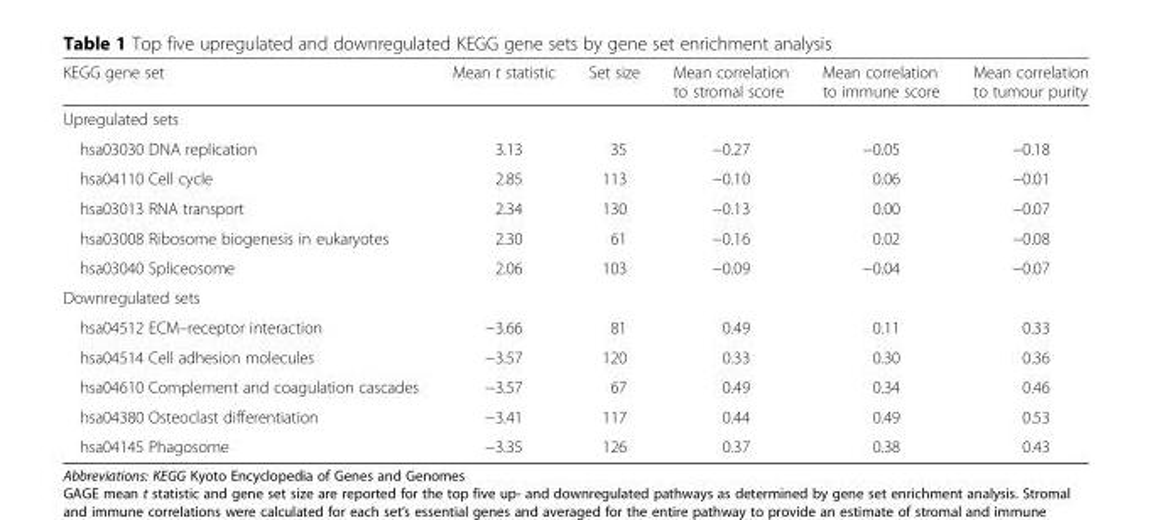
<table><thead><tr><td>KEGG gene set</td><td>Mean t statistic</td><td>Set size</td><td>Mean correlation to stromal score</td><td>Mean correlation to immune score</td><td>Mean correlation to tumour purity</td></tr></thead><tbody><tr><td colspan="6">Upregulated sets</td></tr><tr><td>hsa03030 DNA replication</td><td>3.13</td><td>35</td><td>−0.27</td><td>−0.05</td><td>−0.18</td></tr><tr><td>hsa04110 Cell cycle</td><td>2.85</td><td>113</td><td>−0.10</td><td>0.06</td><td>−0.01</td></tr><tr><td>hsa03013 RNA transport</td><td>2.34</td><td>130</td><td>−0.13</td><td>0.00</td><td>−0.07</td></tr><tr><td>hsa03008 Ribosome biogenesis in eukaryotes</td><td>2.30</td><td>61</td><td>−0.16</td><td>0.02</td><td>−0.08</td></tr><tr><td>hsa03040 Spliceosome</td><td>2.06</td><td>103</td><td>−0.09</td><td>−0.04</td><td>−0.07</td></tr><tr><td colspan="6">Downregulated sets</td></tr><tr><td>hsa04512 ECM–receptor interaction</td><td>−3.66</td><td>81</td><td>0.49</td><td>0.11</td><td>0.33</td></tr><tr><td>hsa04514 Cell adhesion molecules</td><td>−3.57</td><td>120</td><td>0.33</td><td>0.30</td><td>0.36</td></tr><tr><td>hsa04610 Complement and coagulation cascades</td><td>−3.57</td><td>67</td><td>0.49</td><td>0.34</td><td>0.46</td></tr><tr><td>hsa04380 Osteoclast differentiation</td><td>−3.41</td><td>117</td><td>0.44</td><td>0.49</td><td>0.53</td></tr><tr><td>hsa04145 Phagosome</td><td>−3.35</td><td>126</td><td>0.37</td><td>0.38</td><td>0.43</td></tr></tbody></table>